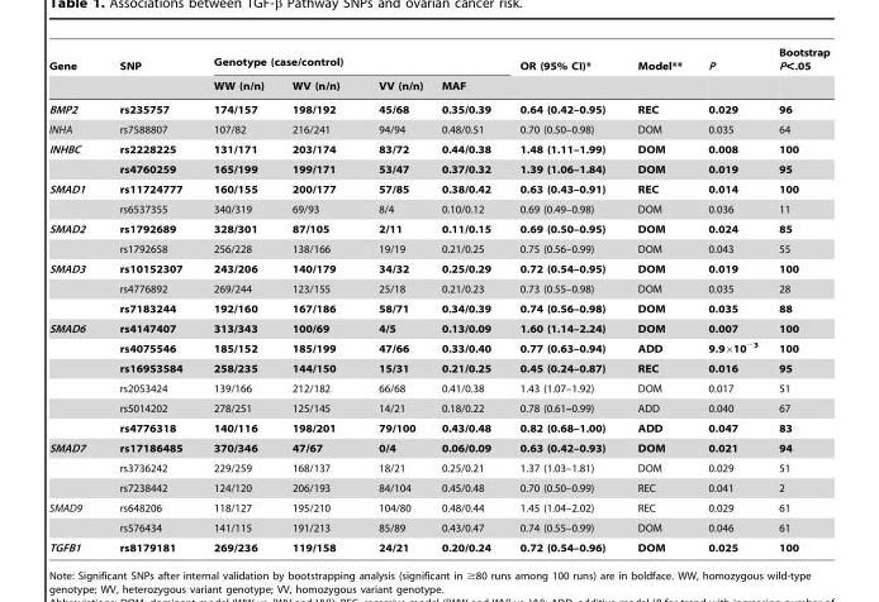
<table><thead><tr><td rowspan="2">Gene</td><td rowspan="2">SNP</td><td colspan="4">Genotype (case/control)</td><td rowspan="2">OR (95% CI)*</td><td rowspan="2">Model**</td><td rowspan="2">P</td><td rowspan="2">Bootstrap P&lt;.05</td></tr><tr><td>WW (n/n)</td><td>WV (n/n)</td><td>VV (n/n)</td><td>MAF</td></tr></thead><tbody><tr><td>BMP2</td><td>rs235757</td><td>174/157</td><td>198/192</td><td>45/68</td><td>0.35/0.39</td><td>0.64 (0.42–0.95)</td><td>REC</td><td>0.029</td><td>96</td></tr><tr><td>INHA</td><td>rs7588807</td><td>107/82</td><td>216/241</td><td>94/94</td><td>0.48/0.51</td><td>0.70 (0.50–0.98)</td><td>DOM</td><td>0.035</td><td>64</td></tr><tr><td rowspan="2">INHBC</td><td>rs2228225</td><td>131/171</td><td>203/174</td><td>83/72</td><td>0.44/0.38</td><td>1.48 (1.11–1.99)</td><td>DOM</td><td>0.008</td><td>100</td></tr><tr><td>rs4760259</td><td>165/199</td><td>199/171</td><td>53/47</td><td>0.37/0.32</td><td>1.39 (1.06–1.84)</td><td>DOM</td><td>0.019</td><td>95</td></tr><tr><td rowspan="2">SMAD1</td><td>rs11724777</td><td>160/155</td><td>200/177</td><td>57/85</td><td>0.38/0.42</td><td>0.63 (0.43–0.91)</td><td>REC</td><td>0.014</td><td>100</td></tr><tr><td>rs6537355</td><td>340/319</td><td>69/93</td><td>8/4</td><td>0.10/0.12</td><td>0.69 (0.49–0.98)</td><td>DOM</td><td>0.036</td><td>11</td></tr><tr><td rowspan="2">SMAD2</td><td>rs1792689</td><td>328/301</td><td>87/105</td><td>2/11</td><td>0.11/0.15</td><td>0.69 (0.50–0.95)</td><td>DOM</td><td>0.024</td><td>85</td></tr><tr><td>rs1792658</td><td>256/228</td><td>138/166</td><td>19/19</td><td>0.21/0.25</td><td>0.75 (0.56–0.99)</td><td>DOM</td><td>0.043</td><td>55</td></tr><tr><td rowspan="3">SMAD3</td><td>rs10152307</td><td>243/206</td><td>140/179</td><td>34/32</td><td>0.25/0.29</td><td>0.72 (0.54–0.95)</td><td>DOM</td><td>0.019</td><td>100</td></tr><tr><td>rs4776892</td><td>269/244</td><td>123/155</td><td>25/18</td><td>0.21/0.23</td><td>0.73 (0.55–0.98)</td><td>DOM</td><td>0.035</td><td>28</td></tr><tr><td>rs7183244</td><td>192/160</td><td>167/186</td><td>58/71</td><td>0.34/0.39</td><td>0.74 (0.56–0.98)</td><td>DOM</td><td>0.035</td><td>88</td></tr><tr><td rowspan="6">SMAD6</td><td>rs4147407</td><td>313/343</td><td>100/69</td><td>4/5</td><td>0.13/0.09</td><td>1.60 (1.14–2.24)</td><td>DOM</td><td>0.007</td><td>100</td></tr><tr><td>rs4075546</td><td>185/152</td><td>185/199</td><td>47/66</td><td>0.33/0.40</td><td>0.77 (0.63–0.94)</td><td>ADD</td><td>9.9×10<sup>−3</sup></td><td>100</td></tr><tr><td>rs16953584</td><td>258/235</td><td>144/150</td><td>15/31</td><td>0.21/0.25</td><td>0.45 (0.24–0.87)</td><td>REC</td><td>0.016</td><td>95</td></tr><tr><td>rs2053424</td><td>139/166</td><td>212/182</td><td>66/68</td><td>0.41/0.38</td><td>1.43 (1.07–1.92)</td><td>DOM</td><td>0.017</td><td>51</td></tr><tr><td>rs5014202</td><td>278/251</td><td>125/145</td><td>14/21</td><td>0.18/0.22</td><td>0.78 (0.61–0.99)</td><td>ADD</td><td>0.040</td><td>67</td></tr><tr><td>rs4776318</td><td>140/116</td><td>198/201</td><td>79/100</td><td>0.43/0.48</td><td>0.82 (0.68–1.00)</td><td>ADD</td><td>0.047</td><td>83</td></tr><tr><td rowspan="3">SMAD7</td><td>rs17186485</td><td>370/346</td><td>47/67</td><td>0/4</td><td>0.06/0.09</td><td>0.63 (0.42–0.93)</td><td>DOM</td><td>0.021</td><td>94</td></tr><tr><td>rs3736242</td><td>229/259</td><td>168/137</td><td>18/21</td><td>0.25/0.21</td><td>1.37 (1.03–1.81)</td><td>DOM</td><td>0.029</td><td>51</td></tr><tr><td>rs7238442</td><td>124/120</td><td>206/193</td><td>84/104</td><td>0.45/0.48</td><td>0.70 (0.50–0.99)</td><td>REC</td><td>0.041</td><td>2</td></tr><tr><td rowspan="2">SMAD9</td><td>rs648206</td><td>118/127</td><td>195/210</td><td>104/80</td><td>0.48/0.44</td><td>1.45 (1.04–2.02)</td><td>REC</td><td>0.029</td><td>61</td></tr><tr><td>rs576434</td><td>141/115</td><td>191/213</td><td>85/89</td><td>0.43/0.47</td><td>0.74 (0.55–0.99)</td><td>DOM</td><td>0.046</td><td>61</td></tr><tr><td>TGFB1</td><td>rs8179181</td><td>269/236</td><td>119/158</td><td>24/21</td><td>0.20/0.24</td><td>0.72 (0.54–0.96)</td><td>DOM</td><td>0.025</td><td>100</td></tr></tbody></table>